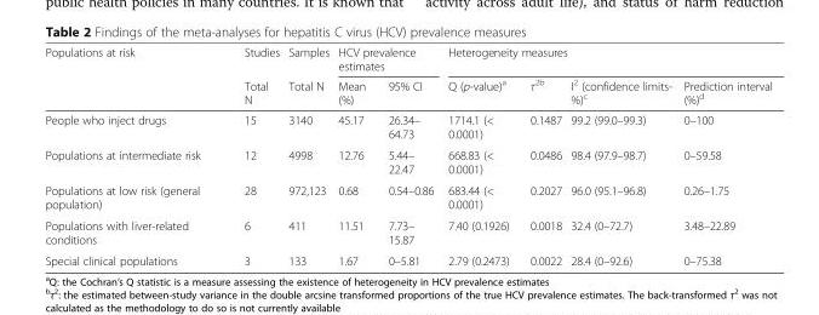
<table><thead><tr><td rowspan="2">Populations at risk</td><td rowspan="2">Studies Total N</td><td rowspan="2">Samples Total N</td><td colspan="2">HCV prevalence estimates</td><td colspan="4">Heterogeneity measures</td></tr><tr><td>Mean (%)</td><td>95% CI</td><td>Q (p-value)<sup>a</sup></td><td>τ<sup>2b</sup></td><td>I<sup>2</sup> (confidence limits- %)<sup>c</sup></td><td>Prediction interval (%)<sup>d</sup></td></tr></thead><tbody><tr><td>People who inject drugs</td><td>15</td><td>3140</td><td>45.17</td><td>26.34– 64.73</td><td>1714.1 (&lt; 0.0001)</td><td>0.1487</td><td>99.2 (99.0–99.3)</td><td>0–100</td></tr><tr><td>Populations at intermediate risk</td><td>12</td><td>4998</td><td>12.76</td><td>5.44– 22.47</td><td>668.83 (&lt; 0.0001)</td><td>0.0486</td><td>98.4 (97.9–98.7)</td><td>0–59.58</td></tr><tr><td>Populations at low risk (general population)</td><td>28</td><td>972,123</td><td>0.68</td><td>0.54–0.86</td><td>683.44 (&lt; 0.0001)</td><td>0.2027</td><td>96.0 (95.1–96.8)</td><td>0.26–1.75</td></tr><tr><td>Populations with liver-related conditions</td><td>6</td><td>411</td><td>11.51</td><td>7.73– 15.87</td><td>7.40 (0.1926)</td><td>0.0018</td><td>32.4 (0–72.7)</td><td>3.48–22.89</td></tr><tr><td>Special clinical populations</td><td>3</td><td>133</td><td>1.67</td><td>0–5.81</td><td>2.79 (0.2473)</td><td>0.0022</td><td>28.4 (0–92.6)</td><td>0–75.38</td></tr></tbody></table>